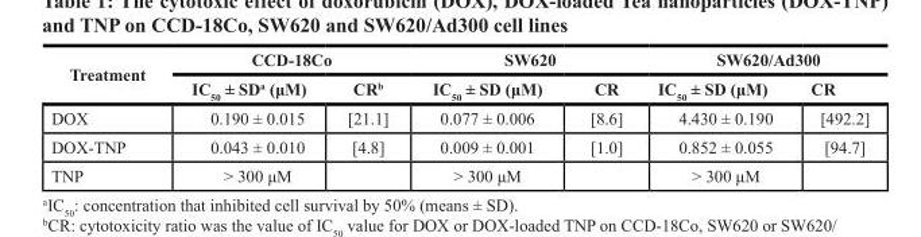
<table><thead><tr><td rowspan="2">Treatment</td><td colspan="2">CCD-18Co</td><td colspan="2">SW620</td><td colspan="2">SW620/Ad300</td></tr><tr><td>IC<sub>50</sub> ± SD<sup>a</sup> (μM)</td><td>CR<sup>b</sup></td><td>IC<sub>50</sub> ± SD (μM)</td><td>CR</td><td>IC<sub>50</sub> ± SD (μM)</td><td>CR</td></tr></thead><tbody><tr><td>DOX</td><td>0.190 ± 0.015</td><td>[21.1]</td><td>0.077 ± 0.006</td><td>[8.6]</td><td>4.430 ± 0.190</td><td>[492.2]</td></tr><tr><td>DOX-TNP</td><td>0.043 ± 0.010</td><td>[4.8]</td><td>0.009 ± 0.001</td><td>[1.0]</td><td>0.852 ± 0.055</td><td>[94.7]</td></tr><tr><td>TNP</td><td>&gt; 300 μM</td><td></td><td>&gt; 300 μM</td><td></td><td>&gt; 300 μM</td><td></td></tr></tbody></table>